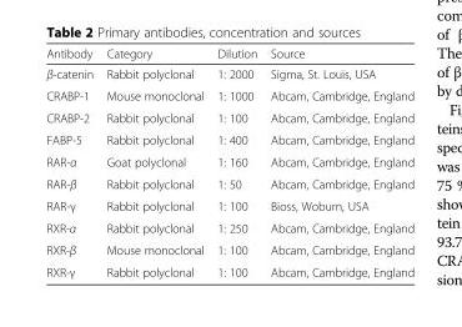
<table><thead><tr><td>Antibody</td><td>Category</td><td>Dilution</td><td>Source</td></tr></thead><tbody><tr><td>β-catenin</td><td>Rabbit polyclonal</td><td>1: 2000</td><td>Sigma, St. Louis, USA</td></tr><tr><td>CRABP-1</td><td>Mouse monoclonal</td><td>1: 1000</td><td>Abcam, Cambridge, England</td></tr><tr><td>CRABP-2</td><td>Rabbit polyclonal</td><td>1: 100</td><td>Abcam, Cambridge, England</td></tr><tr><td>FABP-5</td><td>Rabbit polyclonal</td><td>1: 400</td><td>Abcam, Cambridge, England</td></tr><tr><td>RAR-α</td><td>Goat polyclonal</td><td>1: 160</td><td>Abcam, Cambridge, England</td></tr><tr><td>RAR-β</td><td>Rabbit polyclonal</td><td>1: 50</td><td>Abcam, Cambridge, England</td></tr><tr><td>RAR-γ</td><td>Rabbit polyclonal</td><td>1: 100</td><td>Bioss, Woburn, USA</td></tr><tr><td>RXR-α</td><td>Rabbit polyclonal</td><td>1: 250</td><td>Abcam, Cambridge, England</td></tr><tr><td>RXR-β</td><td>Mouse monoclonal</td><td>1: 100</td><td>Abcam, Cambridge, England</td></tr><tr><td>RXR-γ</td><td>Rabbit polyclonal</td><td>1: 100</td><td>Abcam, Cambridge, England</td></tr></tbody></table>